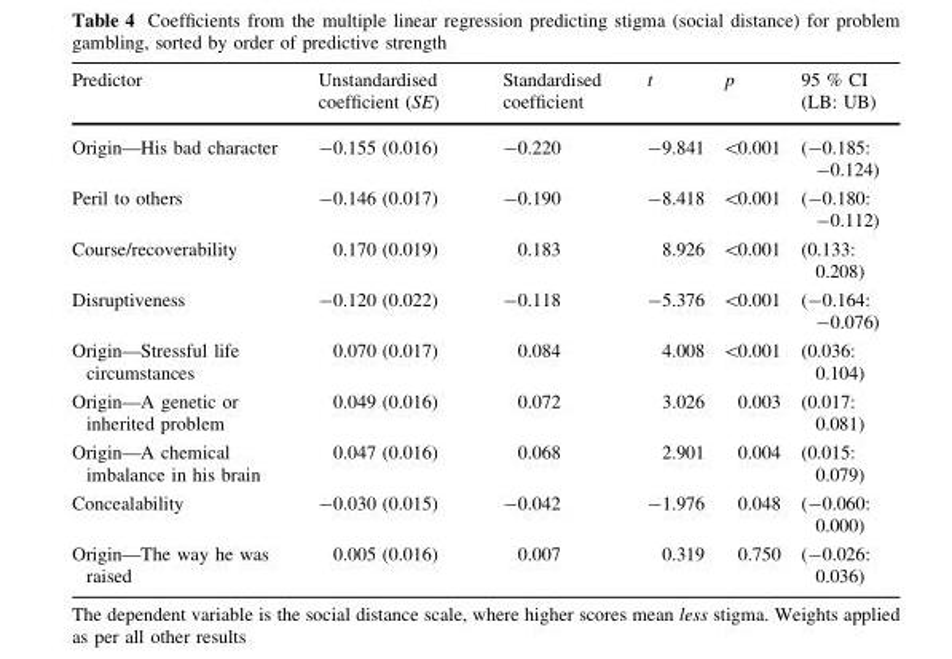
<table><thead><tr><td>Predictor</td><td>Unstandardised coefficient (SE)</td><td>Standardised coefficient</td><td>t</td><td>p</td><td>95 % CI (LB: UB)</td></tr></thead><tbody><tr><td>Origin—His bad character</td><td>-0.155 (0.016)</td><td>-0.220</td><td>-9.841</td><td>&lt;0.001</td><td>(-0.185: -0.124)</td></tr><tr><td>Peril to others</td><td>-0.146 (0.017)</td><td>-0.190</td><td>-8.418</td><td>&lt;0.001</td><td>(-0.180: -0.112)</td></tr><tr><td>Course/recoverability</td><td>0.170 (0.019)</td><td>0.183</td><td>8.926</td><td>&lt;0.001</td><td>(0.133: 0.208)</td></tr><tr><td>Disruptiveness</td><td>-0.120 (0.022)</td><td>-0.118</td><td>-5.376</td><td>&lt;0.001</td><td>(-0.164: -0.076)</td></tr><tr><td>Origin—Stressful life circumstances</td><td>0.070 (0.017)</td><td>0.084</td><td>4.008</td><td>&lt;0.001</td><td>(0.036: 0.104)</td></tr><tr><td>Origin—A genetic or inherited problem</td><td>0.049 (0.016)</td><td>0.072</td><td>3.026</td><td>0.003</td><td>(0.017: 0.081)</td></tr><tr><td>Origin—A chemical imbalance in his brain</td><td>0.047 (0.016)</td><td>0.068</td><td>2.901</td><td>0.004</td><td>(0.015: 0.079)</td></tr><tr><td>Concealability</td><td>-0.030 (0.015)</td><td>-0.042</td><td>-1.976</td><td>0.048</td><td>(-0.060: 0.000)</td></tr><tr><td>Origin—The way he was raised</td><td>0.005 (0.016)</td><td>0.007</td><td>0.319</td><td>0.750</td><td>(-0.026: 0.036)</td></tr></tbody></table>